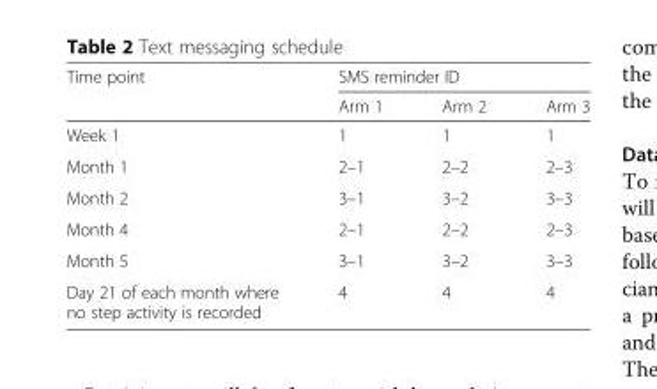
<table><thead><tr><td rowspan="2">Time point</td><td colspan="3">SMS reminder ID</td></tr><tr><td>Arm 1</td><td>Arm 2</td><td>Arm 3</td></tr></thead><tbody><tr><td>Week 1</td><td>1</td><td>1</td><td>1</td></tr><tr><td>Month 1</td><td>2–1</td><td>2–2</td><td>2–3</td></tr><tr><td>Month 2</td><td>3–1</td><td>3–2</td><td>3–3</td></tr><tr><td>Month 4</td><td>2–1</td><td>2–2</td><td>2–3</td></tr><tr><td>Month 5</td><td>3–1</td><td>3–2</td><td>3–3</td></tr><tr><td>Day 21 of each month where no step activity is recorded</td><td>4</td><td>4</td><td>4</td></tr></tbody></table>